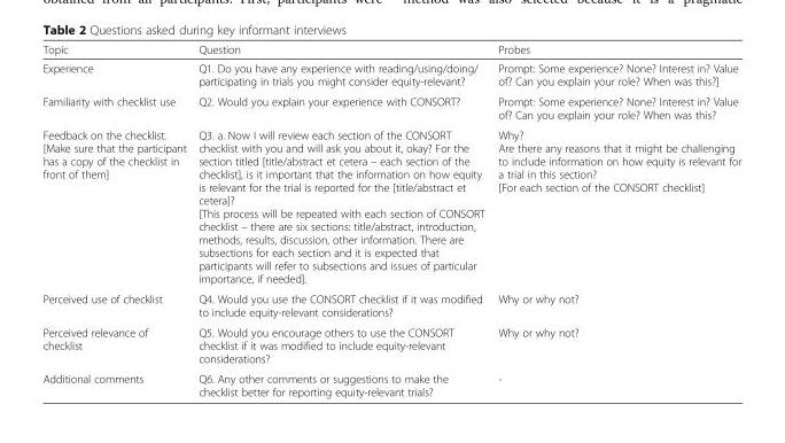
<table><thead><tr><td>Topic</td><td>Question</td><td>Probes</td></tr></thead><tbody><tr><td>Experience</td><td>Q1. Do you have any experience with reading/using/doing/ participating in trials you might consider equity-relevant?</td><td>Prompt: Some experience? None? Interest in? Value of? Can you explain your role? When was this?]</td></tr><tr><td>Familiarity with checklist use</td><td>Q2. Would you explain your experience with CONSORT?</td><td>Prompt: Some experience? None? Interest in? Value of? Can you explain your role? When was this?</td></tr><tr><td>Feedback on the checklist. [Make sure that the participant has a copy of the checklist in front of them]</td><td>Q3. a. Now I will review each section of the CONSORT checklist with you and will ask you about it, okay? For the section titled [title/abstract et cetera – each section of the checklist], is it important that the information on how equity is relevant for the trial is reported for the [title/abstract et cetera]? [This process will be repeated with each section of CONSORT checklist – there are six sections: title/abstract, introduction, methods, results, discussion, other information. There are subsections for each section and it is expected that participants will refer to subsections and issues of particular importance, if needed].</td><td>Why? Are there any reasons that it might be challenging to include information on how equity is relevant for a trial in this section? [For each section of the CONSORT checklist]</td></tr><tr><td>Perceived use of checklist</td><td>Q4. Would you use the CONSORT checklist if it was modified to include equity-relevant considerations?</td><td>Why or why not?</td></tr><tr><td>Perceived relevance of checklist</td><td>Q5. Would you encourage others to use the CONSORT checklist if it was modified to include equity-relevant considerations?</td><td>Why or why not?</td></tr><tr><td>Additional comments</td><td>Q6. Any other comments or suggestions to make the checklist better for reporting equity-relevant trials?</td><td>-</td></tr></tbody></table>